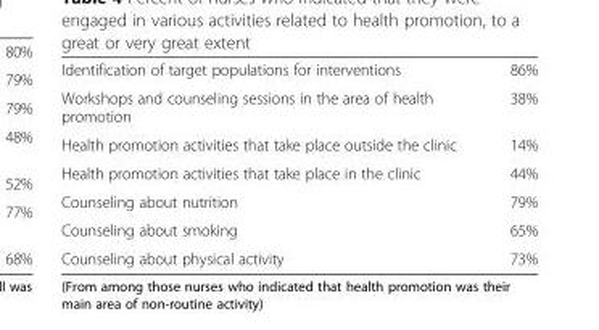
<table><tbody><tr><td>Identification of target populations for interventions</td><td>86%</td></tr><tr><td>Workshops and counseling sessions in the area of health promotion</td><td>38%</td></tr><tr><td>Health promotion activities that take place outside the clinic</td><td>14%</td></tr><tr><td>Health promotion activities that take place in the clinic</td><td>44%</td></tr><tr><td>Counseling about nutrition</td><td>79%</td></tr><tr><td>Counseling about smoking</td><td>65%</td></tr><tr><td>Counseling about physical activity</td><td>73%</td></tr></tbody></table>